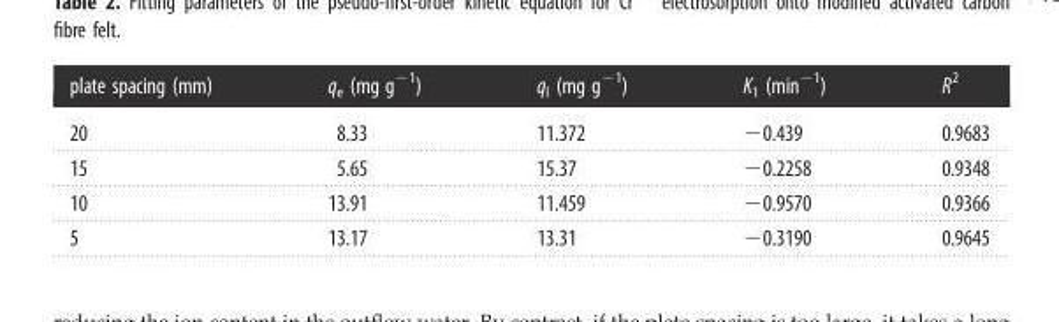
<table><thead><tr><td>plate spacing (mm)</td><td>q<sub>e</sub> (mg g<sup>−1</sup>)</td><td>q<sub>l</sub> (mg g<sup>−1</sup>)</td><td>K<sub>1</sub> (min<sup>−1</sup>)</td><td>R<sup>2</sup></td></tr></thead><tbody><tr><td>20</td><td>8.33</td><td>11.372</td><td>−0.439</td><td>0.9683</td></tr><tr><td>15</td><td>5.65</td><td>15.37</td><td>−0.2258</td><td>0.9348</td></tr><tr><td>10</td><td>13.91</td><td>11.459</td><td>−0.9570</td><td>0.9366</td></tr><tr><td>5</td><td>13.17</td><td>13.31</td><td>−0.3190</td><td>0.9645</td></tr></tbody></table>